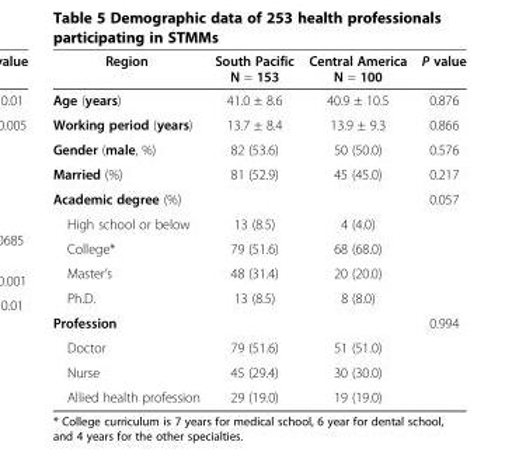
<table><thead><tr><td>Region</td><td>South Pacific N = 153</td><td>Central America N = 100</td><td>P value</td></tr></thead><tbody><tr><td>Age (years)</td><td>41.0 ± 8.6</td><td>40.9 ± 10.5</td><td>0.876</td></tr><tr><td>Working period (years)</td><td>13.7 ± 8.4</td><td>13.9 ± 9.3</td><td>0.866</td></tr><tr><td>Gender (male, %)</td><td>82 (53.6)</td><td>50 (50.0)</td><td>0.576</td></tr><tr><td>Married (%)</td><td>81 (52.9)</td><td>45 (45.0)</td><td>0.217</td></tr><tr><td>Academic degree (%)</td><td></td><td></td><td>0.057</td></tr><tr><td>High school or below</td><td>13 (8.5)</td><td>4 (4.0)</td><td></td></tr><tr><td>College*</td><td>79 (51.6)</td><td>68 (68.0)</td><td></td></tr><tr><td>Master’s</td><td>48 (31.4)</td><td>20 (20.0)</td><td></td></tr><tr><td>Ph.D.</td><td>13 (8.5)</td><td>8 (8.0)</td><td></td></tr><tr><td>Profession</td><td></td><td></td><td>0.994</td></tr><tr><td>Doctor</td><td>79 (51.6)</td><td>51 (51.0)</td><td></td></tr><tr><td>Nurse</td><td>45 (29.4)</td><td>30 (30.0)</td><td></td></tr><tr><td>Allied health profession</td><td>29 (19.0)</td><td>19 (19.0)</td><td></td></tr></tbody></table>